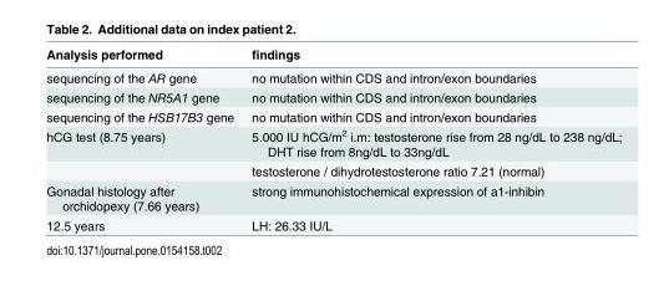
<table><thead><tr><td>Analysis performed</td><td>findings</td></tr></thead><tbody><tr><td>sequencing of the AR gene</td><td>no mutation within CDS and intron/exon boundaries</td></tr><tr><td>sequencing of the NR5A1 gene</td><td>no mutation within CDS and intron/exon boundaries</td></tr><tr><td>sequencing of the HSB17B3 gene</td><td>no mutation within CDS and intron/exon boundaries</td></tr><tr><td rowspan="2">hCG test (8.75 years)</td><td>5.000 IU hCG/m<sup>2</sup> i.m: testosterone rise from 28 ng/dL to 238 ng/dL; DHT rise from 8ng/dL to 33ng/dL</td></tr><tr><td>testosterone / dihydrotestosterone ratio 7.21 (normal)</td></tr><tr><td>Gonadal histology after orchidopexy (7.66 years)</td><td>strong immunohistochemical expression of a1-inhibin</td></tr><tr><td>12.5 years</td><td>LH: 26.33 IU/L</td></tr></tbody></table>